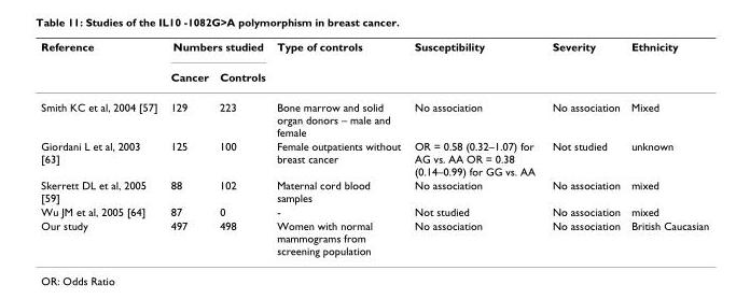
<table><thead><tr><td rowspan="2">Reference</td><td colspan="2">Numbers studied</td><td rowspan="2">Type of controls</td><td rowspan="2">Susceptibility</td><td rowspan="2">Severity</td><td rowspan="2">Ethnicity</td></tr><tr><td>Cancer</td><td>Controls</td></tr></thead><tbody><tr><td>Smith KC et al, 2004 [57]</td><td>129</td><td>223</td><td>Bone marrow and solid organ donors – male and female</td><td>No association</td><td>No association</td><td>Mixed</td></tr><tr><td>Giordani L et al, 2003 [63]</td><td>125</td><td>100</td><td>Female outpatients without breast cancer</td><td>OR = 0.58 (0.32–1.07) for AG vs. AA OR = 0.38 (0.14–0.99) for GG vs. AA</td><td>Not studied</td><td>unknown</td></tr><tr><td>Skerrett DL et al, 2005 [59]</td><td>88</td><td>102</td><td>Maternal cord blood samples</td><td>No association</td><td>No association</td><td>mixed</td></tr><tr><td>Wu JM et al, 2005 [64]</td><td>87</td><td>0</td><td>-</td><td>Not studied</td><td>No association</td><td>mixed</td></tr><tr><td>Our study</td><td>497</td><td>498</td><td>Women with normal mammograms from screening population</td><td>No association</td><td>No association</td><td>British Caucasian</td></tr></tbody></table>